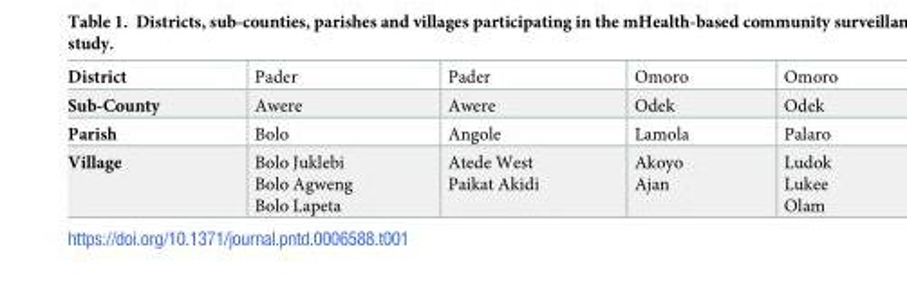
<table><tbody><tr><td>District</td><td>Pader</td><td>Pader</td><td>Omoro</td><td>Omoro</td></tr><tr><td>Sub-County</td><td>Awere</td><td>Awere</td><td>Odek</td><td>Odek</td></tr><tr><td>Parish</td><td>Bolo</td><td>Angole</td><td>Lamola</td><td>Palaro</td></tr><tr><td>Village</td><td>Bolo Juklebi Bolo Agweng Bolo Lapeta</td><td>Atede West Paikat Akidi</td><td>Akoyo Ajan</td><td>Ludok Lukee Olam</td></tr></tbody></table>